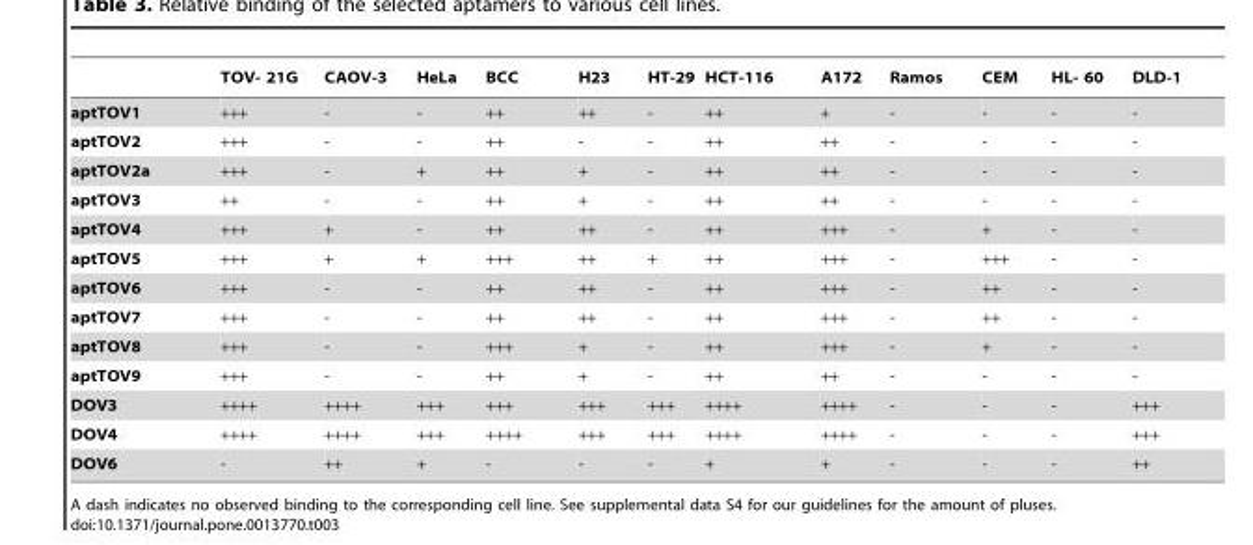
<table><thead><tr><td></td><td>TOV- 21G</td><td>CAOV-3</td><td>HeLa</td><td>BCC</td><td>H23</td><td>HT-29</td><td>HCT-116</td><td>A172</td><td>Ramos</td><td>CEM</td><td>HL- 60</td><td>DLD-1</td></tr></thead><tbody><tr><td>aptTOV1</td><td>+++</td><td>-</td><td>-</td><td>++</td><td>++</td><td>-</td><td>++</td><td>+</td><td>-</td><td>-</td><td>-</td><td>-</td></tr><tr><td>aptTOV2</td><td>+++</td><td>-</td><td>-</td><td>++</td><td>-</td><td>-</td><td>++</td><td>++</td><td>-</td><td>-</td><td>-</td><td>-</td></tr><tr><td>aptTOV2a</td><td>+++</td><td>-</td><td>+</td><td>++</td><td>+</td><td>-</td><td>++</td><td>++</td><td>-</td><td>-</td><td>-</td><td>-</td></tr><tr><td>aptTOV3</td><td>++</td><td>-</td><td>-</td><td>++</td><td>+</td><td>-</td><td>++</td><td>++</td><td>-</td><td>-</td><td>-</td><td>-</td></tr><tr><td>aptTOV4</td><td>+++</td><td>+</td><td>-</td><td>++</td><td>++</td><td>-</td><td>++</td><td>+++</td><td>-</td><td>+</td><td>-</td><td>-</td></tr><tr><td>aptTOV5</td><td>+++</td><td>+</td><td>+</td><td>+++</td><td>++</td><td>+</td><td>++</td><td>+++</td><td>-</td><td>+++</td><td>-</td><td>-</td></tr><tr><td>aptTOV6</td><td>+++</td><td>-</td><td>-</td><td>++</td><td>++</td><td>-</td><td>++</td><td>+++</td><td>-</td><td>++</td><td>-</td><td>-</td></tr><tr><td>aptTOV7</td><td>+++</td><td>-</td><td>-</td><td>++</td><td>++</td><td>-</td><td>++</td><td>+++</td><td>-</td><td>++</td><td>-</td><td>-</td></tr><tr><td>aptTOV8</td><td>+++</td><td>-</td><td>-</td><td>+++</td><td>+</td><td>-</td><td>++</td><td>+++</td><td>-</td><td>+</td><td>-</td><td>-</td></tr><tr><td>aptTOV9</td><td>+++</td><td>-</td><td>-</td><td>++</td><td>+</td><td>-</td><td>++</td><td>++</td><td>-</td><td>-</td><td>-</td><td>-</td></tr><tr><td>DOV3</td><td>++++</td><td>++++</td><td>+++</td><td>+++</td><td>+++</td><td>+++</td><td>++++</td><td>++++</td><td>-</td><td>-</td><td>-</td><td>+++</td></tr><tr><td>DOV4</td><td>++++</td><td>++++</td><td>+++</td><td>++++</td><td>+++</td><td>+++</td><td>++++</td><td>++++</td><td>-</td><td>-</td><td>-</td><td>+++</td></tr><tr><td>DOV6</td><td>-</td><td>++</td><td>+</td><td>-</td><td>-</td><td>-</td><td>+</td><td>+</td><td>-</td><td>-</td><td>-</td><td>++</td></tr></tbody></table>